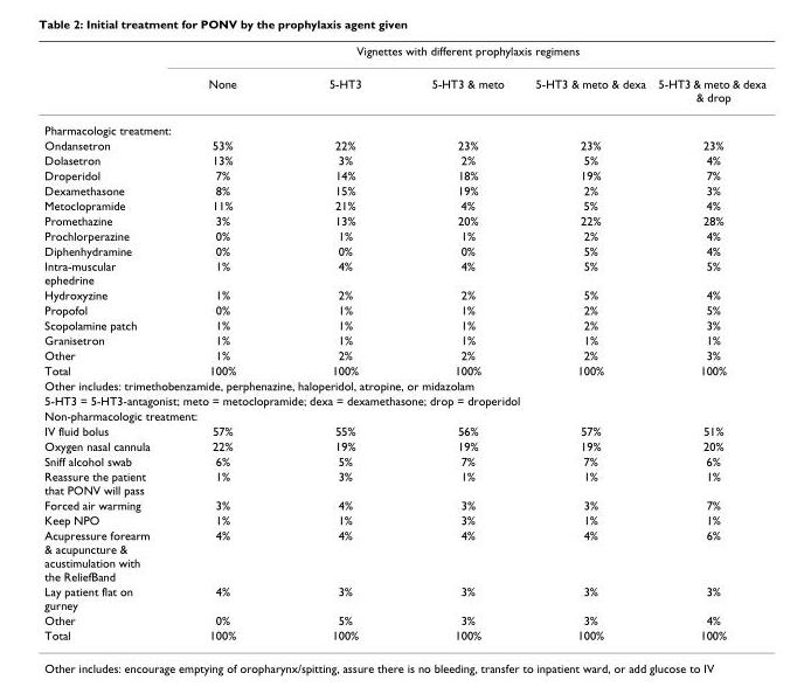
<table><thead><tr><td rowspan="2"></td><td colspan="5">Vignettes with different prophylaxis regimens</td></tr><tr><td>None</td><td>5-HT3</td><td>5-HT3 &amp; meto</td><td>5-HT3 &amp; meto &amp; dexa</td><td>5-HT3 &amp; meto &amp; dexa &amp; drop</td></tr></thead><tbody><tr><td colspan="6">Pharmacologic treatment:</td></tr><tr><td>Ondansetron</td><td>53%</td><td>22%</td><td>23%</td><td>23%</td><td>23%</td></tr><tr><td>Dolasetron</td><td>13%</td><td>3%</td><td>2%</td><td>5%</td><td>4%</td></tr><tr><td>Droperidol</td><td>7%</td><td>14%</td><td>18%</td><td>19%</td><td>7%</td></tr><tr><td>Dexamethasone</td><td>8%</td><td>15%</td><td>19%</td><td>2%</td><td>3%</td></tr><tr><td>Metoclopramide</td><td>11%</td><td>21%</td><td>4%</td><td>5%</td><td>4%</td></tr><tr><td>Promethazine</td><td>3%</td><td>13%</td><td>20%</td><td>22%</td><td>28%</td></tr><tr><td>Prochlorperazine</td><td>0%</td><td>1%</td><td>1%</td><td>2%</td><td>4%</td></tr><tr><td>Diphenhydramine</td><td>0%</td><td>0%</td><td>0%</td><td>5%</td><td>4%</td></tr><tr><td>Intra-muscular ephedrine</td><td>1%</td><td>4%</td><td>4%</td><td>5%</td><td>5%</td></tr><tr><td>Hydroxyzine</td><td>1%</td><td>2%</td><td>2%</td><td>5%</td><td>4%</td></tr><tr><td>Propofol</td><td>0%</td><td>1%</td><td>1%</td><td>2%</td><td>5%</td></tr><tr><td>Scopolamine patch</td><td>1%</td><td>1%</td><td>1%</td><td>2%</td><td>3%</td></tr><tr><td>Granisetron</td><td>1%</td><td>1%</td><td>1%</td><td>1%</td><td>1%</td></tr><tr><td>Other</td><td>1%</td><td>2%</td><td>2%</td><td>2%</td><td>3%</td></tr><tr><td>Total</td><td>100%</td><td>100%</td><td>100%</td><td>100%</td><td>100%</td></tr><tr><td colspan="6">Other includes: trimethobenzamide, perphenazine, haloperidol, atropine, or midazolam</td></tr><tr><td colspan="6">5-HT3 = 5-HT3-antagonist; meto = metoclopramide; dexa = dexamethasone; drop = droperidol</td></tr><tr><td colspan="6">Non-pharmacologic treatment:</td></tr><tr><td>IV fluid bolus</td><td>57%</td><td>55%</td><td>56%</td><td>57%</td><td>51%</td></tr><tr><td>Oxygen nasal cannula</td><td>22%</td><td>19%</td><td>19%</td><td>19%</td><td>20%</td></tr><tr><td>Sniff alcohol swab</td><td>6%</td><td>5%</td><td>7%</td><td>7%</td><td>6%</td></tr><tr><td>Reassure the patient that PONV will pass</td><td>1%</td><td>3%</td><td>1%</td><td>1%</td><td>1%</td></tr><tr><td>Forced air warming</td><td>3%</td><td>4%</td><td>3%</td><td>3%</td><td>7%</td></tr><tr><td>Keep NPO</td><td>1%</td><td>1%</td><td>3%</td><td>1%</td><td>1%</td></tr><tr><td>Acupressure forearm &amp; acupuncture &amp; acustimulation with the ReliefBand</td><td>4%</td><td>4%</td><td>4%</td><td>4%</td><td>6%</td></tr><tr><td>Lay patient flat on gurney</td><td>4%</td><td>3%</td><td>3%</td><td>3%</td><td>3%</td></tr><tr><td>Other</td><td>0%</td><td>5%</td><td>3%</td><td>3%</td><td>4%</td></tr><tr><td>Total</td><td>100%</td><td>100%</td><td>100%</td><td>100%</td><td>100%</td></tr></tbody></table>